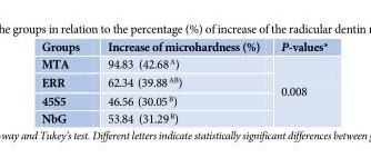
<table><thead><tr><td>Groups</td><td>Increase of microhardness (%)</td><td>P-values*</td></tr></thead><tbody><tr><td>MTA</td><td>94.83 (42.68 <sup>A</sup>)</td><td rowspan="4">0.008</td></tr><tr><td>ERR</td><td>62.34 (39.88 <sup>AB</sup>)</td></tr><tr><td>45S5</td><td>46.56 (30.05 <sup>B</sup>)</td></tr><tr><td>NbG</td><td>53.84 (31.29 <sup>B</sup>)</td></tr></tbody></table>